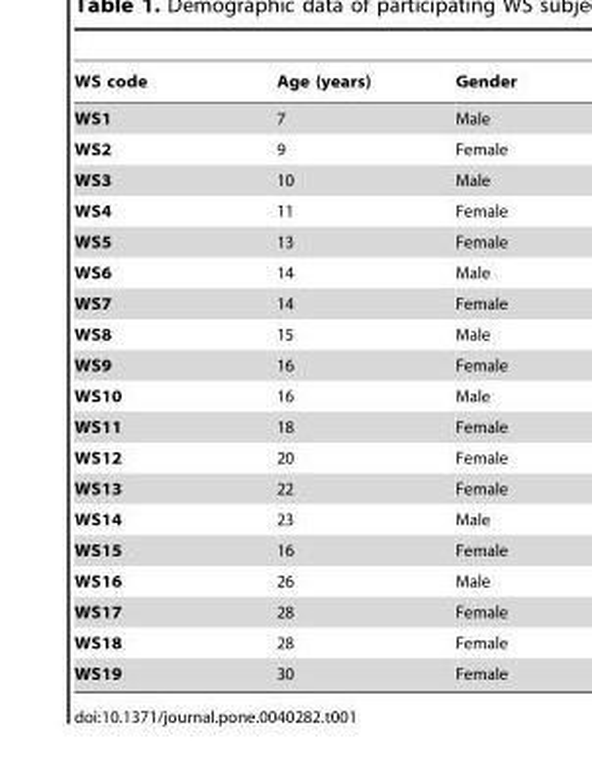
<table><thead><tr><td>WS code</td><td>Age (years)</td><td>Gender</td></tr></thead><tbody><tr><td>WS1</td><td>7</td><td>Male</td></tr><tr><td>WS2</td><td>9</td><td>Female</td></tr><tr><td>WS3</td><td>10</td><td>Male</td></tr><tr><td>WS4</td><td>11</td><td>Female</td></tr><tr><td>WS5</td><td>13</td><td>Female</td></tr><tr><td>WS6</td><td>14</td><td>Male</td></tr><tr><td>WS7</td><td>14</td><td>Female</td></tr><tr><td>WS8</td><td>15</td><td>Male</td></tr><tr><td>WS9</td><td>16</td><td>Female</td></tr><tr><td>WS10</td><td>16</td><td>Male</td></tr><tr><td>WS11</td><td>18</td><td>Female</td></tr><tr><td>WS12</td><td>20</td><td>Female</td></tr><tr><td>WS13</td><td>22</td><td>Female</td></tr><tr><td>WS14</td><td>23</td><td>Male</td></tr><tr><td>WS15</td><td>16</td><td>Female</td></tr><tr><td>WS16</td><td>26</td><td>Male</td></tr><tr><td>WS17</td><td>28</td><td>Female</td></tr><tr><td>WS18</td><td>28</td><td>Female</td></tr><tr><td>WS19</td><td>30</td><td>Female</td></tr></tbody></table>